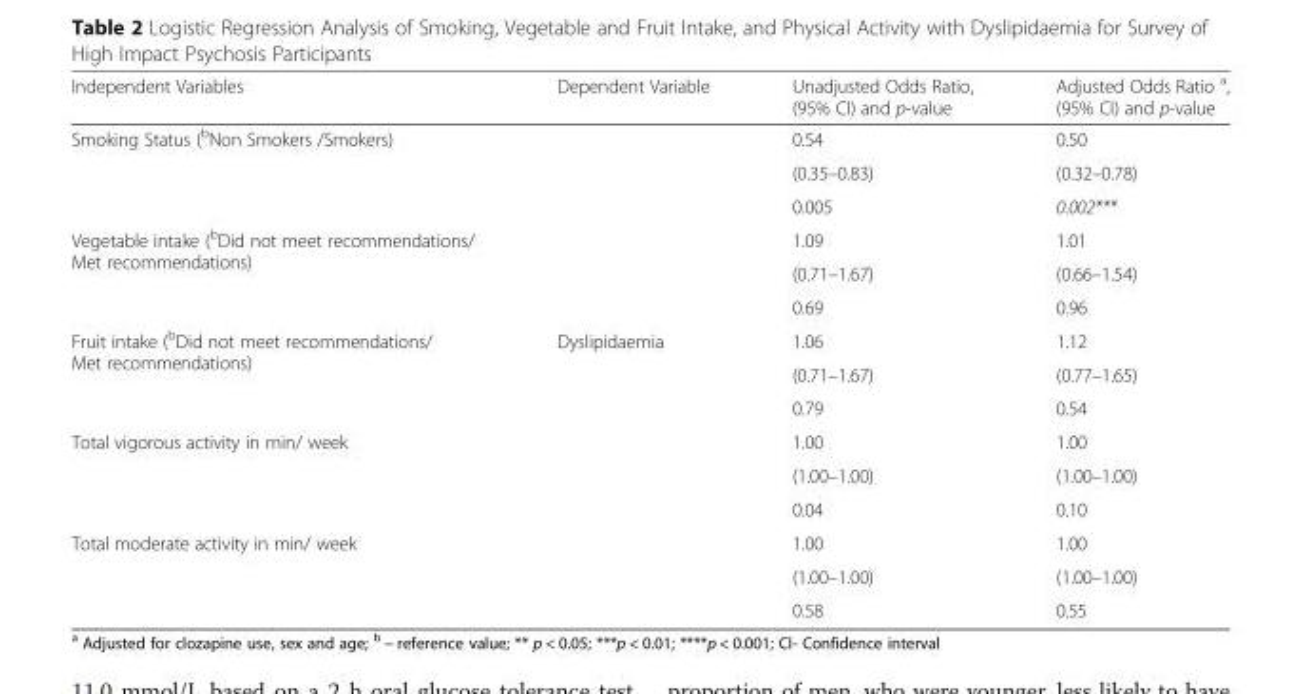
<table><thead><tr><td>Independent Variables</td><td>Dependent Variable</td><td>Unadjusted Odds Ratio, (95% CI) and p-value</td><td>Adjusted Odds Ratio <sup>a</sup>, (95% CI) and p-value</td></tr></thead><tbody><tr><td rowspan="3">Smoking Status (<sup>b</sup>Non Smokers /Smokers)</td><td rowspan="3"></td><td>0.54</td><td>0.50</td></tr><tr><td>(0.35–0.83)</td><td>(0.32–0.78)</td></tr><tr><td>0.005</td><td>0.002***</td></tr><tr><td rowspan="3">Vegetable intake (<sup>b</sup>Did not meet recommendations/ Met recommendations)</td><td rowspan="3"></td><td>1.09</td><td>1.01</td></tr><tr><td>(0.71–1.67)</td><td>(0.66–1.54)</td></tr><tr><td>0.69</td><td>0.96</td></tr><tr><td rowspan="3">Fruit intake (<sup>b</sup>Did not meet recommendations/ Met recommendations)</td><td rowspan="3">Dyslipidaemia</td><td>1.06</td><td>1.12</td></tr><tr><td>(0.71–1.67)</td><td>(0.77–1.65)</td></tr><tr><td>0.79</td><td>0.54</td></tr><tr><td rowspan="3">Total vigorous activity in min/ week</td><td rowspan="6"></td><td>1.00</td><td>1.00</td></tr><tr><td>(1.00–1.00)</td><td>(1.00–1.00)</td></tr><tr><td>0.04</td><td>0.10</td></tr><tr><td rowspan="3">Total moderate activity in min/ week</td><td>1.00</td><td>1.00</td></tr><tr><td>(1.00–1.00)</td><td>(1.00–1.00)</td></tr><tr><td>0.58</td><td>0.55</td></tr></tbody></table>